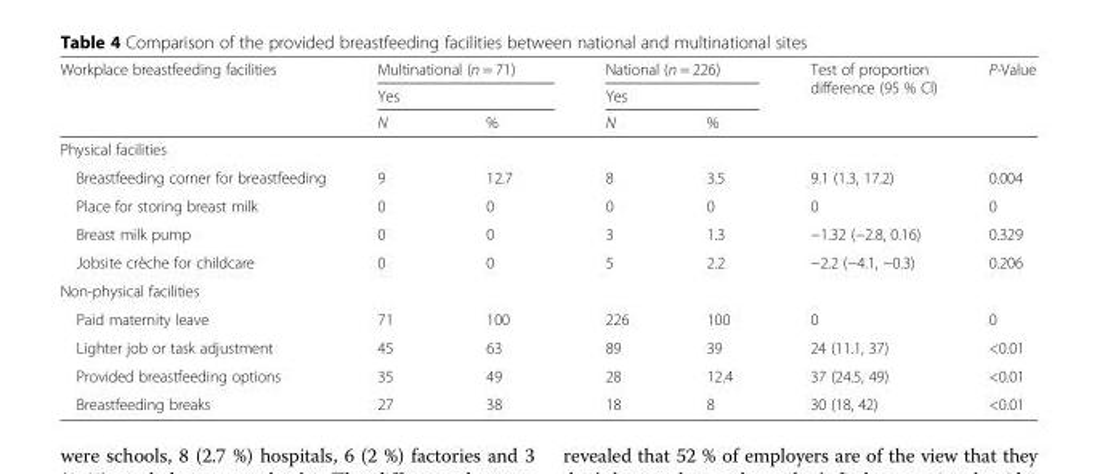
<table><thead><tr><td rowspan="3">Workplace breastfeeding facilities</td><td rowspan="2" colspan="2">Multinational (n = 71) Yes</td><td rowspan="2" colspan="2">National (n = 226) Yes</td><td rowspan="3">Test of proportion difference (95 % Cl)</td><td rowspan="3">P-Value</td></tr><tr></tr><tr><td>N</td><td>%</td><td>N</td><td>%</td></tr></thead><tbody><tr><td colspan="7">Physical facilities</td></tr><tr><td>Breastfeeding corner for breastfeeding</td><td>9</td><td>12.7</td><td>8</td><td>3.5</td><td>9.1 (1.3, 17.2)</td><td>0.004</td></tr><tr><td>Place for storing breast milk</td><td>0</td><td>0</td><td>0</td><td>0</td><td>0</td><td>0</td></tr><tr><td>Breast milk pump</td><td>0</td><td>0</td><td>3</td><td>1.3</td><td>−1.32 (−2.8, 0.16)</td><td>0.329</td></tr><tr><td>Jobsite crèche for childcare</td><td>0</td><td>0</td><td>5</td><td>2.2</td><td>−2.2 (−4.1, −0.3)</td><td>0.206</td></tr><tr><td colspan="7">Non-physical facilities</td></tr><tr><td>Paid maternity leave</td><td>71</td><td>100</td><td>226</td><td>100</td><td>0</td><td>0</td></tr><tr><td>Lighter job or task adjustment</td><td>45</td><td>63</td><td>89</td><td>39</td><td>24 (11.1, 37)</td><td>&lt;0.01</td></tr><tr><td>Provided breastfeeding options</td><td>35</td><td>49</td><td>28</td><td>12.4</td><td>37 (24.5, 49)</td><td>&lt;0.01</td></tr><tr><td>Breastfeeding breaks</td><td>27</td><td>38</td><td>18</td><td>8</td><td>30 (18, 42)</td><td>&lt;0.01</td></tr></tbody></table>